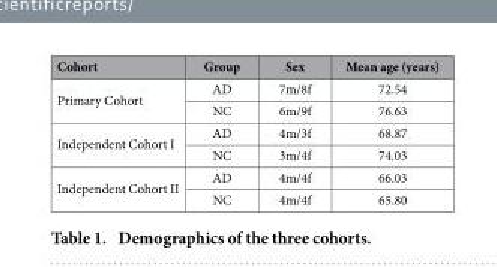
<table><thead><tr><td>Cohort</td><td>Group</td><td>Sex</td><td>Mean age (years)</td></tr></thead><tbody><tr><td rowspan="2">Primary Cohort</td><td>AD</td><td>7m/8f</td><td>72.54</td></tr><tr><td>NC</td><td>6m/9f</td><td>76.63</td></tr><tr><td rowspan="2">Independent Cohort I</td><td>AD</td><td>4m/3f</td><td>68.87</td></tr><tr><td>NC</td><td>3m/4f</td><td>74.03</td></tr><tr><td rowspan="2">Independent Cohort II</td><td>AD</td><td>4m/4f</td><td>66.03</td></tr><tr><td>NC</td><td>4m/4f</td><td>65.80</td></tr></tbody></table>